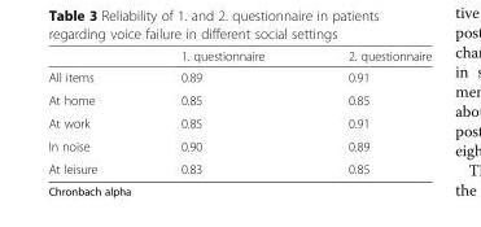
<table><thead><tr><td></td><td>1. questionnaire</td><td>2. questionnaire</td></tr></thead><tbody><tr><td>All items</td><td>0.89</td><td>0.91</td></tr><tr><td>At home</td><td>0.85</td><td>0.85</td></tr><tr><td>At work</td><td>0.85</td><td>0.91</td></tr><tr><td>In noise</td><td>0.90</td><td>0.89</td></tr><tr><td>At leisure</td><td>0.83</td><td>0.85</td></tr></tbody></table>